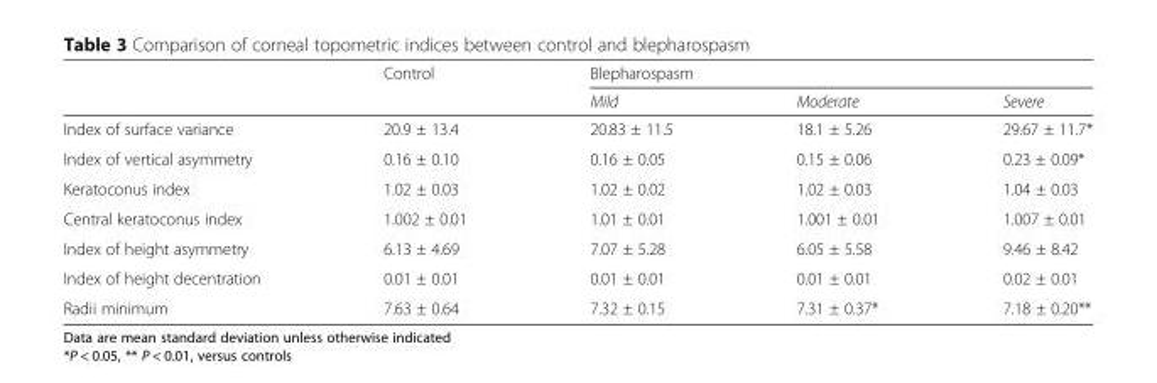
<table><thead><tr><td rowspan="2"></td><td rowspan="2">Control</td><td colspan="3">Blepharospasm</td></tr><tr><td>Mild</td><td>Moderate</td><td>Severe</td></tr></thead><tbody><tr><td>Index of surface variance</td><td>20.9 ± 13.4</td><td>20.83 ± 11.5</td><td>18.1 ± 5.26</td><td>29.67 ± 11.7*</td></tr><tr><td>Index of vertical asymmetry</td><td>0.16 ± 0.10</td><td>0.16 ± 0.05</td><td>0.15 ± 0.06</td><td>0.23 ± 0.09*</td></tr><tr><td>Keratoconus index</td><td>1.02 ± 0.03</td><td>1.02 ± 0.02</td><td>1.02 ± 0.03</td><td>1.04 ± 0.03</td></tr><tr><td>Central keratoconus index</td><td>1.002 ± 0.01</td><td>1.01 ± 0.01</td><td>1.001 ± 0.01</td><td>1.007 ± 0.01</td></tr><tr><td>Index of height asymmetry</td><td>6.13 ± 4.69</td><td>7.07 ± 5.28</td><td>6.05 ± 5.58</td><td>9.46 ± 8.42</td></tr><tr><td>Index of height decentration</td><td>0.01 ± 0.01</td><td>0.01 ± 0.01</td><td>0.01 ± 0.01</td><td>0.02 ± 0.01</td></tr><tr><td>Radii minimum</td><td>7.63 ± 0.64</td><td>7.32 ± 0.15</td><td>7.31 ± 0.37*</td><td>7.18 ± 0.20**</td></tr></tbody></table>